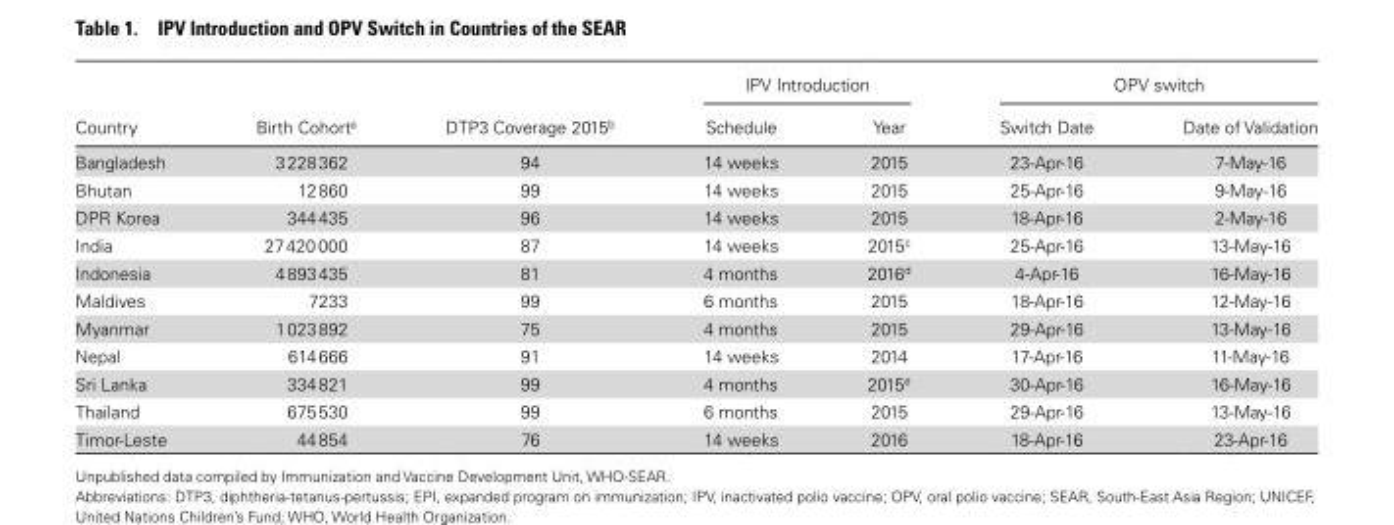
<table><thead><tr><td rowspan="2">Country</td><td rowspan="2">Birth Cohort<sup>a</sup></td><td rowspan="2">DTP3 Coverage 2015<sup>b</sup></td><td colspan="2">IPV Introduction</td><td colspan="2">OPV switch</td></tr><tr><td>Schedule</td><td>Year</td><td>Switch Date</td><td>Date of Validation</td></tr></thead><tbody><tr><td>Bangladesh</td><td>3 228 362</td><td>94</td><td>14 weeks</td><td>2015</td><td>23-Apr-16</td><td>7-May-16</td></tr><tr><td>Bhutan</td><td>12 860</td><td>99</td><td>14 weeks</td><td>2015</td><td>25-Apr-16</td><td>9-May-16</td></tr><tr><td>DPR Korea</td><td>344 435</td><td>96</td><td>14 weeks</td><td>2015</td><td>18-Apr-16</td><td>2-May-16</td></tr><tr><td>India</td><td>27 420 000</td><td>87</td><td>14 weeks</td><td>2015<sup>c</sup></td><td>25-Apr-16</td><td>13-May-16</td></tr><tr><td>Indonesia</td><td>4 893 435</td><td>81</td><td>4 months</td><td>2016<sup>d</sup></td><td>4-Apr-16</td><td>16-May-16</td></tr><tr><td>Maldives</td><td>7233</td><td>99</td><td>6 months</td><td>2015</td><td>18-Apr-16</td><td>12-May-16</td></tr><tr><td>Myanmar</td><td>1 023 892</td><td>75</td><td>4 months</td><td>2015</td><td>29-Apr-16</td><td>13-May-16</td></tr><tr><td>Nepal</td><td>614 666</td><td>91</td><td>14 weeks</td><td>2014</td><td>17-Apr-16</td><td>11-May-16</td></tr><tr><td>Sri Lanka</td><td>334 821</td><td>99</td><td>4 months</td><td>2015<sup>e</sup></td><td>30-Apr-16</td><td>16-May-16</td></tr><tr><td>Thailand</td><td>675 530</td><td>99</td><td>6 months</td><td>2015</td><td>29-Apr-16</td><td>13-May-16</td></tr><tr><td>Timor-Leste</td><td>44 854</td><td>76</td><td>14 weeks</td><td>2016</td><td>18-Apr-16</td><td>23-Apr-16</td></tr></tbody></table>